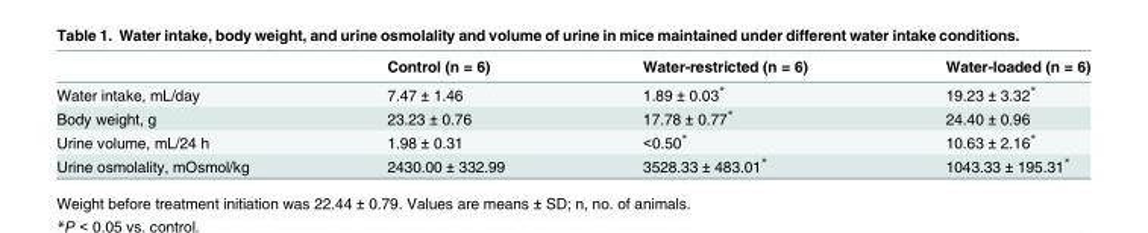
<table><thead><tr><td></td><td>Control (n = 6)</td><td>Water-restricted (n = 6)</td><td>Water-loaded (n = 6)</td></tr></thead><tbody><tr><td>Water intake, mL/day</td><td>7.47 ± 1.46</td><td>1.89 ± 0.03*</td><td>19.23 ± 3.32*</td></tr><tr><td>Body weight, g</td><td>23.23 ± 0.76</td><td>17.78 ± 0.77*</td><td>24.40 ± 0.96</td></tr><tr><td>Urine volume, mL/24 h</td><td>1.98 ± 0.31</td><td>&lt;0.50*</td><td>10.63 ± 2.16*</td></tr><tr><td>Urine osmolality, mOsmol/kg</td><td>2430.00 ± 332.99</td><td>3528.33 ± 483.01*</td><td>1043.33 ± 195.31*</td></tr></tbody></table>